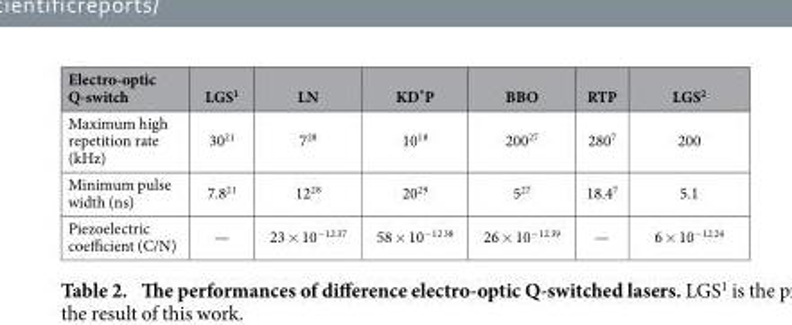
<table><thead><tr><td>Electro-optic Q-switch</td><td>LGS<sup>1</sup></td><td>LN</td><td>KD*P</td><td>BBO</td><td>RTP</td><td>LGS<sup>2</sup></td></tr></thead><tbody><tr><td>Maximum high repetition rate (kHz)</td><td>30<sup>21</sup></td><td>7<sup>28</sup></td><td>10<sup>18</sup></td><td>200<sup>27</sup></td><td>280<sup>7</sup></td><td>200</td></tr><tr><td>Minimum pulse width (ns)</td><td>7.8<sup>21</sup></td><td>12<sup>28</sup></td><td>20<sup>29</sup></td><td>5<sup>27</sup></td><td>18.4<sup>7</sup></td><td>5.1</td></tr><tr><td>Piezoelectric coefficient (C/N)</td><td>—</td><td>23 × 10<sup>−12</sup> 37</td><td>58 × 10<sup>−12</sup> 38</td><td>26 × 10<sup>−12</sup> 39</td><td>—</td><td>6 × 10<sup>−12</sup> 24</td></tr></tbody></table>